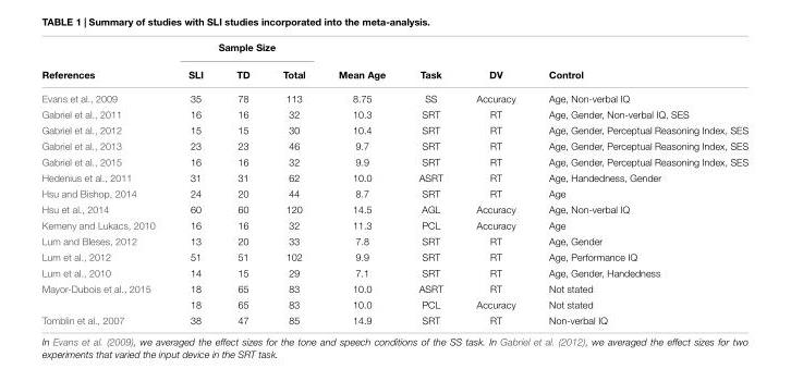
<table><thead><tr><td rowspan="2">References</td><td colspan="3">Sample Size</td><td rowspan="2">Mean Age</td><td rowspan="2">Task</td><td rowspan="2">DV</td><td rowspan="2">Control</td></tr><tr><td>SLI</td><td>TD</td><td>Total</td></tr></thead><tbody><tr><td>Evans et al., 2009</td><td>35</td><td>78</td><td>113</td><td>8.75</td><td>SS</td><td>Accuracy</td><td>Age, Non-verbal IQ</td></tr><tr><td>Gabriel et al., 2011</td><td>16</td><td>16</td><td>32</td><td>10.3</td><td>SRT</td><td>RT</td><td>Age, Gender, Non-verbal IQ, SES</td></tr><tr><td>Gabriel et al., 2012</td><td>15</td><td>15</td><td>30</td><td>10.4</td><td>SRT</td><td>RT</td><td>Age, Gender, Perceptual Reasoning Index, SES</td></tr><tr><td>Gabriel et al., 2013</td><td>23</td><td>23</td><td>46</td><td>9.7</td><td>SRT</td><td>RT</td><td>Age, Gender, Perceptual Reasoning Index, SES</td></tr><tr><td>Gabriel et al., 2015</td><td>16</td><td>16</td><td>32</td><td>9.9</td><td>SRT</td><td>RT</td><td>Age, Gender, Perceptual Reasoning Index, SES</td></tr><tr><td>Hedenius et al., 2011</td><td>31</td><td>31</td><td>62</td><td>10.0</td><td>ASRT</td><td>RT</td><td>Age, Handedness, Gender</td></tr><tr><td>Hsu and Bishop, 2014</td><td>24</td><td>20</td><td>44</td><td>8.7</td><td>SRT</td><td>RT</td><td>Age</td></tr><tr><td>Hsu et al., 2014</td><td>60</td><td>60</td><td>120</td><td>14.5</td><td>AGL</td><td>Accuracy</td><td>Age, Non-verbal IQ</td></tr><tr><td>Kemeny and Lukacs, 2010</td><td>16</td><td>16</td><td>32</td><td>11.3</td><td>PCL</td><td>Accuracy</td><td>Age</td></tr><tr><td>Lum and Bleses, 2012</td><td>13</td><td>20</td><td>33</td><td>7.8</td><td>SRT</td><td>RT</td><td>Age, Gender</td></tr><tr><td>Lum et al., 2012</td><td>51</td><td>51</td><td>102</td><td>9.9</td><td>SRT</td><td>RT</td><td>Age, Performance IQ</td></tr><tr><td>Lum et al., 2010</td><td>14</td><td>15</td><td>29</td><td>7.1</td><td>SRT</td><td>RT</td><td>Age, Gender, Handedness</td></tr><tr><td>Mayor-Dubois et al., 2015</td><td>18</td><td>65</td><td>83</td><td>10.0</td><td>ASRT</td><td>RT</td><td>Not stated</td></tr><tr><td></td><td>18</td><td>65</td><td>83</td><td>10.0</td><td>PCL</td><td>Accuracy</td><td>Not stated</td></tr><tr><td>Tomblin et al., 2007</td><td>38</td><td>47</td><td>85</td><td>14.9</td><td>SRT</td><td>RT</td><td>Non-verbal IQ</td></tr></tbody></table>